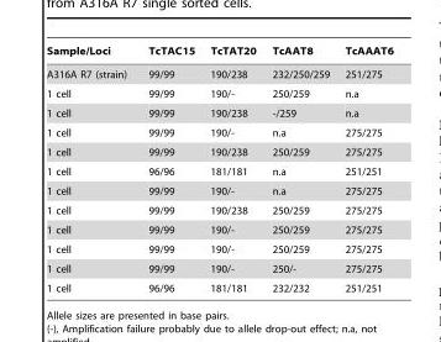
<table><thead><tr><td>Sample/Loci</td><td>TcTAC15</td><td>TcTAT20</td><td>TcAAT8</td><td>TcAAAT6</td></tr></thead><tbody><tr><td>A316A R7 (strain)</td><td>99/99</td><td>190/238</td><td>232/250/259</td><td>251/275</td></tr><tr><td>1 cell</td><td>99/99</td><td>190/-</td><td>250/259</td><td>n.a</td></tr><tr><td>1 cell</td><td>99/99</td><td>190/238</td><td>-/259</td><td>n.a</td></tr><tr><td>1 cell</td><td>99/99</td><td>190/-</td><td>n.a</td><td>275/275</td></tr><tr><td>1 cell</td><td>99/99</td><td>190/238</td><td>250/259</td><td>275/275</td></tr><tr><td>1 cell</td><td>96/96</td><td>181/181</td><td>n.a</td><td>251/251</td></tr><tr><td>1 cell</td><td>99/99</td><td>190/-</td><td>n.a</td><td>275/275</td></tr><tr><td>1 cell</td><td>99/99</td><td>190/238</td><td>250/259</td><td>275/275</td></tr><tr><td>1 cell</td><td>99/99</td><td>190/-</td><td>250/259</td><td>275/275</td></tr><tr><td>1 cell</td><td>99/99</td><td>190/-</td><td>250/259</td><td>275/275</td></tr><tr><td>1 cell</td><td>99/99</td><td>190/-</td><td>250/-</td><td>275/275</td></tr><tr><td>1 cell</td><td>96/96</td><td>181/181</td><td>232/232</td><td>251/251</td></tr></tbody></table>